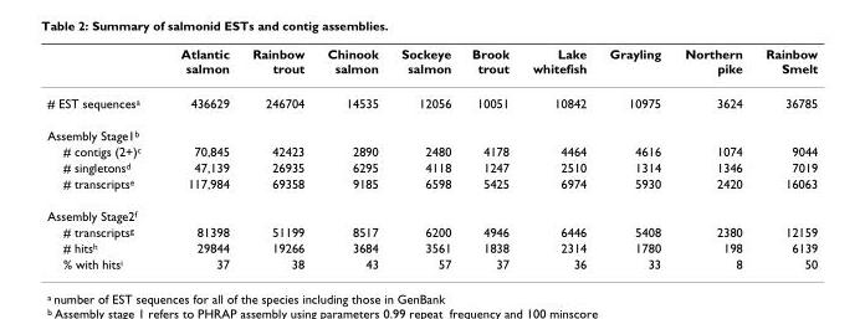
<table><thead><tr><td></td><td>Atlantic salmon</td><td>Rainbow trout</td><td>Chinook salmon</td><td>Sockeye salmon</td><td>Brook trout</td><td>Lake whitefish</td><td>Grayling</td><td>Northern pike</td><td>Rainbow Smelt</td></tr></thead><tbody><tr><td># EST sequences<sup>a</sup></td><td>436629</td><td>246704</td><td>14535</td><td>12056</td><td>10051</td><td>10842</td><td>10975</td><td>3624</td><td>36785</td></tr><tr><td colspan="10">Assembly Stage1<sup>b</sup></td></tr><tr><td># contigs (2+)<sup>c</sup></td><td>70,845</td><td>42423</td><td>2890</td><td>2480</td><td>4178</td><td>4464</td><td>4616</td><td>1074</td><td>9044</td></tr><tr><td># singletons<sup>d</sup></td><td>47,139</td><td>26935</td><td>6295</td><td>4118</td><td>1247</td><td>2510</td><td>1314</td><td>1346</td><td>7019</td></tr><tr><td># transcripts<sup>e</sup></td><td>117,984</td><td>69358</td><td>9185</td><td>6598</td><td>5425</td><td>6974</td><td>5930</td><td>2420</td><td>16063</td></tr><tr><td colspan="10">Assembly Stage2<sup>f</sup></td></tr><tr><td># transcripts<sup>g</sup></td><td>81398</td><td>51199</td><td>8517</td><td>6200</td><td>4946</td><td>6446</td><td>5408</td><td>2380</td><td>12159</td></tr><tr><td># hits<sup>h</sup></td><td>29844</td><td>19266</td><td>3684</td><td>3561</td><td>1838</td><td>2314</td><td>1780</td><td>198</td><td>6139</td></tr><tr><td>% with hits<sup>i</sup></td><td>37</td><td>38</td><td>43</td><td>57</td><td>37</td><td>36</td><td>33</td><td>8</td><td>50</td></tr></tbody></table>